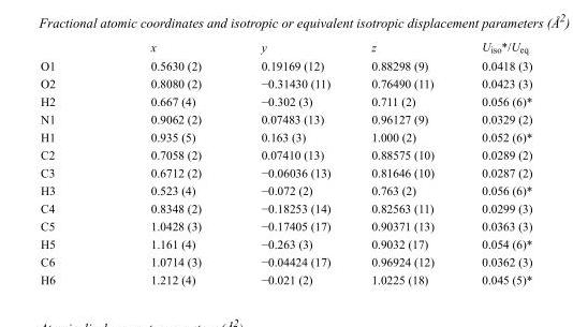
<table><thead><tr><td></td><td>x</td><td>y</td><td>z</td><td>U<sub>iso</sub>*/U<sub>eq</sub></td></tr></thead><tbody><tr><td>O1</td><td>0.5630 (2)</td><td>0.19169 (12)</td><td>0.88298 (9)</td><td>0.0418 (3)</td></tr><tr><td>O2</td><td>0.8080 (2)</td><td>−0.31430 (11)</td><td>0.76490 (11)</td><td>0.0423 (3)</td></tr><tr><td>H2</td><td>0.667 (4)</td><td>−0.302 (3)</td><td>0.711 (2)</td><td>0.056 (6)*</td></tr><tr><td>N1</td><td>0.9062 (2)</td><td>0.07483 (13)</td><td>0.96127 (9)</td><td>0.0329 (2)</td></tr><tr><td>H1</td><td>0.935 (5)</td><td>0.163 (3)</td><td>1.000 (2)</td><td>0.052 (6)*</td></tr><tr><td>C2</td><td>0.7058 (2)</td><td>0.07410 (13)</td><td>0.88575 (10)</td><td>0.0289 (2)</td></tr><tr><td>C3</td><td>0.6712 (2)</td><td>−0.06036 (13)</td><td>0.81646 (10)</td><td>0.0287 (2)</td></tr><tr><td>H3</td><td>0.523 (4)</td><td>−0.072 (2)</td><td>0.763 (2)</td><td>0.056 (6)*</td></tr><tr><td>C4</td><td>0.8348 (2)</td><td>−0.18253 (14)</td><td>0.82563 (11)</td><td>0.0299 (3)</td></tr><tr><td>C5</td><td>1.0428 (3)</td><td>−0.17405 (17)</td><td>0.90371 (13)</td><td>0.0363 (3)</td></tr><tr><td>H5</td><td>1.161 (4)</td><td>−0.263 (3)</td><td>0.9032 (17)</td><td>0.054 (6)*</td></tr><tr><td>C6</td><td>1.0714 (3)</td><td>−0.04424 (17)</td><td>0.96924 (12)</td><td>0.0362 (3)</td></tr><tr><td>H6</td><td>1.212 (4)</td><td>−0.021 (2)</td><td>1.0225 (18)</td><td>0.045 (5)*</td></tr></tbody></table>